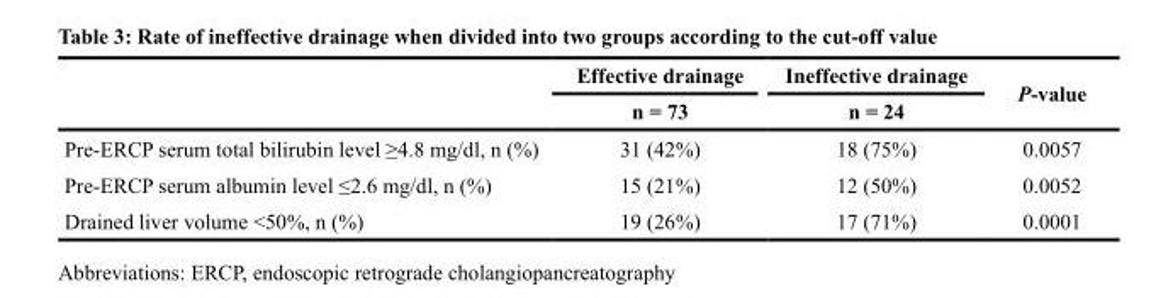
<table><thead><tr><td rowspan="2"></td><td rowspan="2">Effective drainage n = 73</td><td rowspan="2">Ineffective drainage n = 24</td><td rowspan="2">P-value</td></tr><tr></tr></thead><tbody><tr><td>Pre-ERCP serum total bilirubin level ≥4.8 mg/dl, n (%)</td><td>31 (42%)</td><td>18 (75%)</td><td>0.0057</td></tr><tr><td>Pre-ERCP serum albumin level ≤2.6 mg/dl, n (%)</td><td>15 (21%)</td><td>12 (50%)</td><td>0.0052</td></tr><tr><td>Drained liver volume &lt;50%, n (%)</td><td>19 (26%)</td><td>17 (71%)</td><td>0.0001</td></tr></tbody></table>